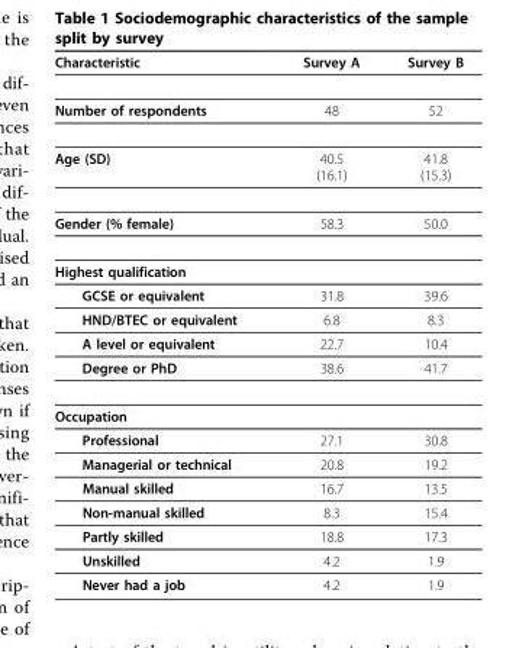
<table><thead><tr><td>Characteristic</td><td>Survey A</td><td>Survey B</td></tr></thead><tbody><tr><td>Number of respondents</td><td>48</td><td>52</td></tr><tr><td>Age (SD)</td><td>40.5 (16.1)</td><td>41.8 (15.3)</td></tr><tr><td>Gender (% female)</td><td>58.3</td><td>50.0</td></tr><tr><td colspan="3">Highest qualification</td></tr><tr><td>GCSE or equivalent</td><td>31.8</td><td>39.6</td></tr><tr><td>HND/BTEC or equivalent</td><td>6.8</td><td>8.3</td></tr><tr><td>A level or equivalent</td><td>22.7</td><td>10.4</td></tr><tr><td>Degree or PhD</td><td>38.6</td><td>41.7</td></tr><tr><td colspan="3">Occupation</td></tr><tr><td>Professional</td><td>27.1</td><td>30.8</td></tr><tr><td>Managerial or technical</td><td>20.8</td><td>19.2</td></tr><tr><td>Manual skilled</td><td>16.7</td><td>13.5</td></tr><tr><td>Non-manual skilled</td><td>8.3</td><td>15.4</td></tr><tr><td>Partly skilled</td><td>18.8</td><td>17.3</td></tr><tr><td>Unskilled</td><td>4.2</td><td>1.9</td></tr><tr><td>Never had a job</td><td>4.2</td><td>1.9</td></tr></tbody></table>